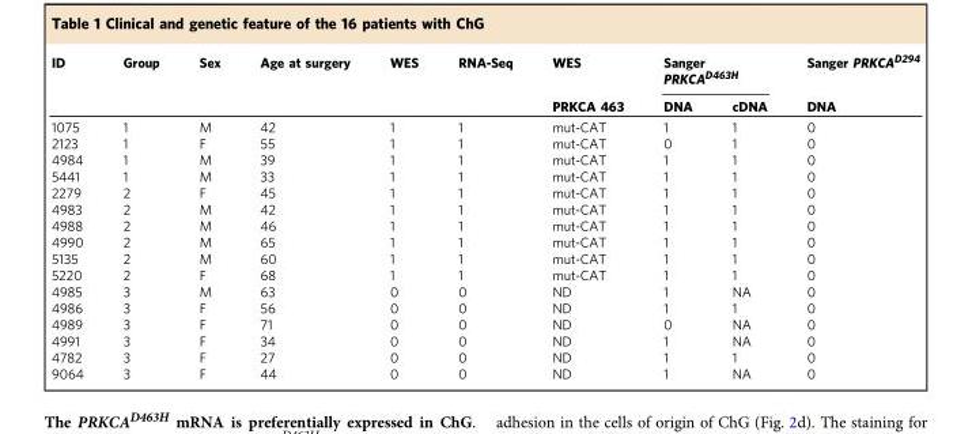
<table><thead><tr><td rowspan="2">ID</td><td rowspan="2">Group</td><td rowspan="2">Sex</td><td rowspan="2">Age at surgery</td><td rowspan="2">WES</td><td rowspan="2">RNA-Seq</td><td rowspan="2">WES PRKCA 463</td><td colspan="2">Sanger PRKCA<sup>D463H</sup></td><td rowspan="2">Sanger PRKCA<sup>D294</sup> DNA</td></tr><tr><td>DNA</td><td>cDNA</td></tr></thead><tbody><tr><td>1075</td><td>1</td><td>M</td><td>42</td><td>1</td><td>1</td><td>mut-CAT</td><td>1</td><td>1</td><td>0</td></tr><tr><td>2123</td><td>1</td><td>F</td><td>55</td><td>1</td><td>1</td><td>mut-CAT</td><td>0</td><td>1</td><td>0</td></tr><tr><td>4984</td><td>1</td><td>M</td><td>39</td><td>1</td><td>1</td><td>mut-CAT</td><td>1</td><td>1</td><td>0</td></tr><tr><td>5441</td><td>1</td><td>M</td><td>33</td><td>1</td><td>1</td><td>mut-CAT</td><td>1</td><td>1</td><td>0</td></tr><tr><td>2279</td><td>2</td><td>F</td><td>45</td><td>1</td><td>1</td><td>mut-CAT</td><td>1</td><td>1</td><td>0</td></tr><tr><td>4983</td><td>2</td><td>M</td><td>42</td><td>1</td><td>1</td><td>mut-CAT</td><td>1</td><td>1</td><td>0</td></tr><tr><td>4988</td><td>2</td><td>M</td><td>46</td><td>1</td><td>1</td><td>mut-CAT</td><td>1</td><td>1</td><td>0</td></tr><tr><td>4990</td><td>2</td><td>M</td><td>65</td><td>1</td><td>1</td><td>mut-CAT</td><td>1</td><td>1</td><td>0</td></tr><tr><td>5135</td><td>2</td><td>M</td><td>60</td><td>1</td><td>1</td><td>mut-CAT</td><td>1</td><td>1</td><td>0</td></tr><tr><td>5220</td><td>2</td><td>F</td><td>68</td><td>1</td><td>1</td><td>mut-CAT</td><td>1</td><td>1</td><td>0</td></tr><tr><td>4985</td><td>3</td><td>M</td><td>63</td><td>0</td><td>0</td><td>ND</td><td>1</td><td>NA</td><td>0</td></tr><tr><td>4986</td><td>3</td><td>F</td><td>56</td><td>0</td><td>0</td><td>ND</td><td>1</td><td>1</td><td>0</td></tr><tr><td>4989</td><td>3</td><td>F</td><td>71</td><td>0</td><td>0</td><td>ND</td><td>0</td><td>NA</td><td>0</td></tr><tr><td>4991</td><td>3</td><td>F</td><td>34</td><td>0</td><td>0</td><td>ND</td><td>1</td><td>NA</td><td>0</td></tr><tr><td>4782</td><td>3</td><td>F</td><td>27</td><td>0</td><td>0</td><td>ND</td><td>1</td><td>1</td><td>0</td></tr><tr><td>9064</td><td>3</td><td>F</td><td>44</td><td>0</td><td>0</td><td>ND</td><td>1</td><td>NA</td><td>0</td></tr></tbody></table>